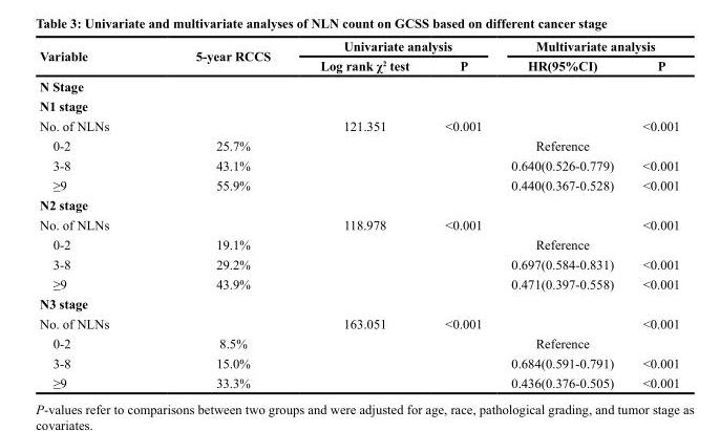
<table><thead><tr><td rowspan="2">Variable</td><td rowspan="2">5-year RCCS</td><td colspan="2">Univariate analysis</td><td colspan="2">Multivariate analysis</td></tr><tr><td>Log rank χ<sup>2</sup> test</td><td>P</td><td>HR(95%CI)</td><td>P</td></tr></thead><tbody><tr><td colspan="6">N Stage</td></tr><tr><td colspan="6">N1 stage</td></tr><tr><td>No. of NLNs</td><td></td><td>121.351</td><td>&lt;0.001</td><td></td><td>&lt;0.001</td></tr><tr><td>0-2</td><td>25.7%</td><td></td><td></td><td>Reference</td><td></td></tr><tr><td>3-8</td><td>43.1%</td><td></td><td></td><td>0.640(0.526-0.779)</td><td>&lt;0.001</td></tr><tr><td>≥9</td><td>55.9%</td><td></td><td></td><td>0.440(0.367-0.528)</td><td>&lt;0.001</td></tr><tr><td colspan="6">N2 stage</td></tr><tr><td>No. of NLNs</td><td></td><td>118.978</td><td>&lt;0.001</td><td></td><td>&lt;0.001</td></tr><tr><td>0-2</td><td>19.1%</td><td></td><td></td><td>Reference</td><td></td></tr><tr><td>3-8</td><td>29.2%</td><td></td><td></td><td>0.697(0.584-0.831)</td><td>&lt;0.001</td></tr><tr><td>≥9</td><td>43.9%</td><td></td><td></td><td>0.471(0.397-0.558)</td><td>&lt;0.001</td></tr><tr><td colspan="6">N3 stage</td></tr><tr><td>No. of NLNs</td><td></td><td>163.051</td><td>&lt;0.001</td><td></td><td>&lt;0.001</td></tr><tr><td>0-2</td><td>8.5%</td><td></td><td></td><td>Reference</td><td></td></tr><tr><td>3-8</td><td>15.0%</td><td></td><td></td><td>0.684(0.591-0.791)</td><td>&lt;0.001</td></tr><tr><td>≥9</td><td>33.3%</td><td></td><td></td><td>0.436(0.376-0.505)</td><td>&lt;0.001</td></tr></tbody></table>